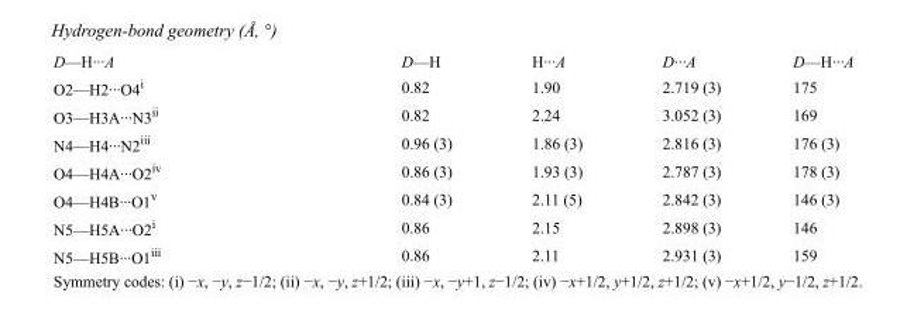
<table><tbody><tr><td>D—H···A</td><td>D—H</td><td>H···A</td><td>D···A</td><td>D—H···A</td></tr><tr><td>O2—H2···O4<sup>i</sup></td><td>0.82</td><td>1.90</td><td>2.719 (3)</td><td>175</td></tr><tr><td>O3—H3A···N3<sup>ii</sup></td><td>0.82</td><td>2.24</td><td>3.052 (3)</td><td>169</td></tr><tr><td>N4—H4···N2<sup>iii</sup></td><td>0.96 (3)</td><td>1.86 (3)</td><td>2.816 (3)</td><td>176 (3)</td></tr><tr><td>O4—H4A···O2<sup>iv</sup></td><td>0.86 (3)</td><td>1.93 (3)</td><td>2.787 (3)</td><td>178 (3)</td></tr><tr><td>O4—H4B···O1<sup>v</sup></td><td>0.84 (3)</td><td>2.11 (5)</td><td>2.842 (3)</td><td>146 (3)</td></tr><tr><td>N5—H5A···O2<sup>i</sup></td><td>0.86</td><td>2.15</td><td>2.898 (3)</td><td>146</td></tr><tr><td>N5—H5B···O1<sup>iii</sup></td><td>0.86</td><td>2.11</td><td>2.931 (3)</td><td>159</td></tr></tbody></table>